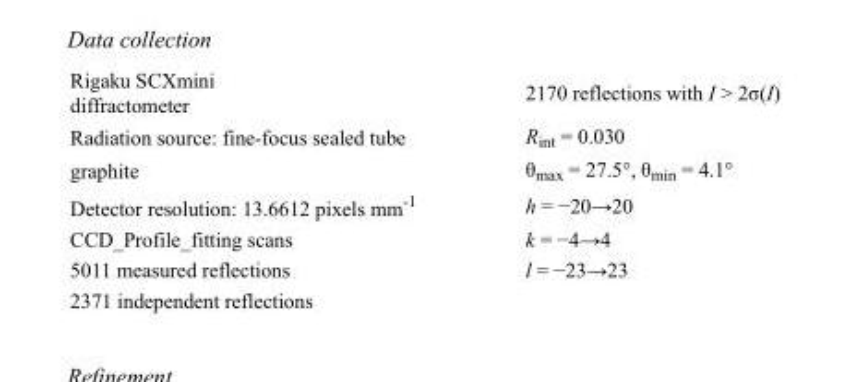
<table><tbody><tr><td>Rigaku SCXmini diffractometer</td><td>2170 reflections with I &gt; 2σ(I)</td></tr><tr><td>Radiation source: fine-focus sealed tube</td><td>R<sub>int</sub> = 0.030</td></tr><tr><td>graphite</td><td>θ<sub>max</sub> = 27.5°, θ<sub>min</sub> = 4.1°</td></tr><tr><td>Detector resolution: 13.6612 pixels mm<sup>-1</sup></td><td>h = −20→20</td></tr><tr><td>CCD_Profile_fitting scans</td><td>k = −4→4</td></tr><tr><td>5011 measured reflections</td><td>l = −23→23</td></tr><tr><td>2371 independent reflections</td><td></td></tr></tbody></table>